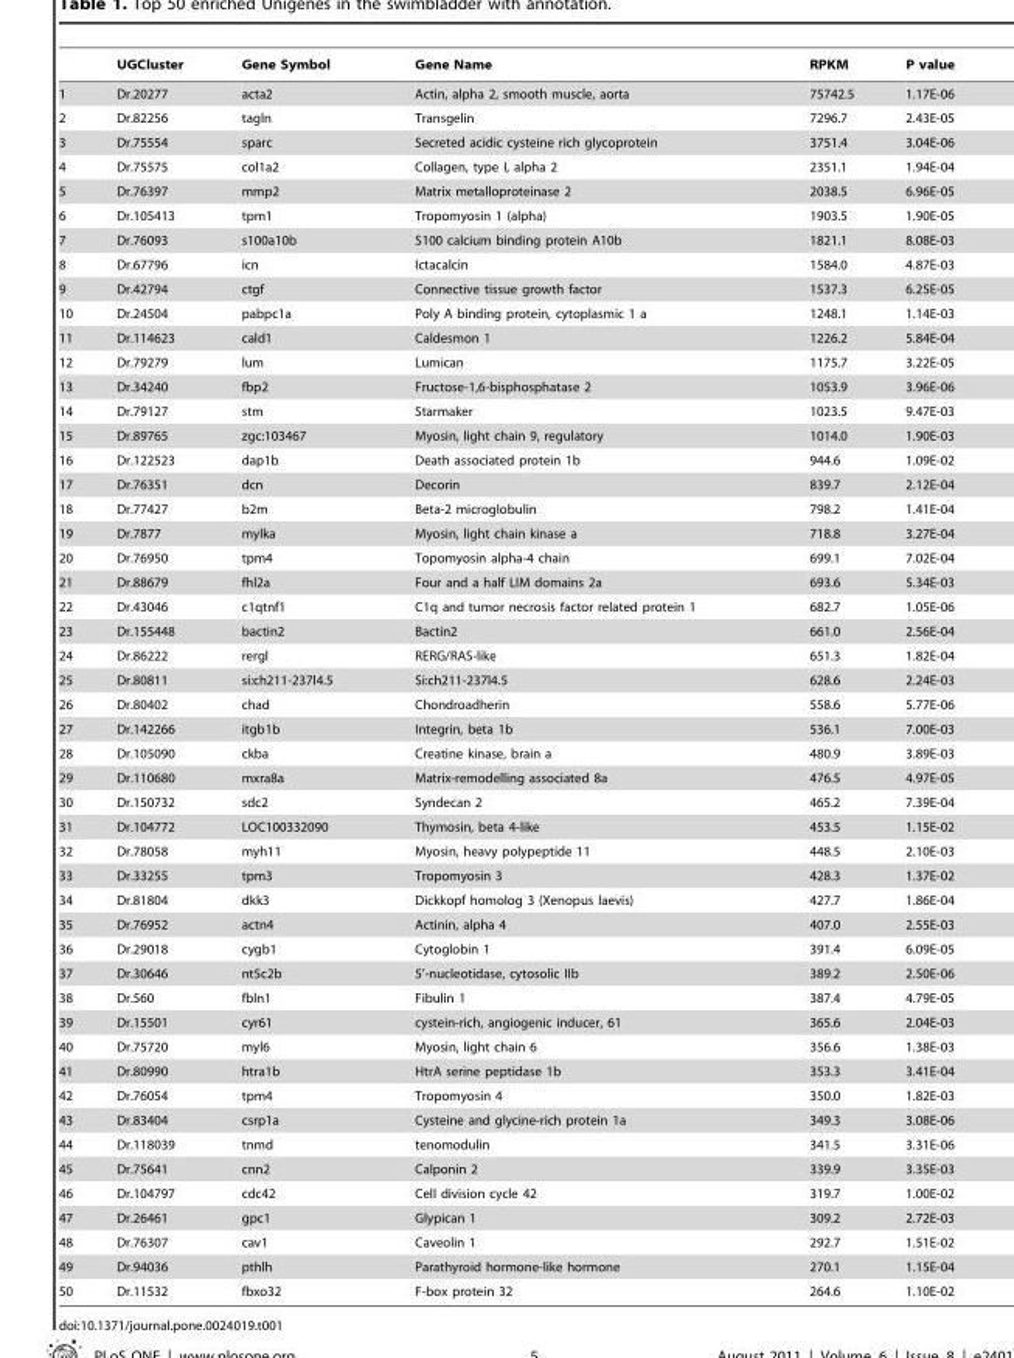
<table><thead><tr><td></td><td>UGCluster</td><td>Gene Symbol</td><td>Gene Name</td><td>RPKM</td><td>P value</td></tr></thead><tbody><tr><td>1</td><td>Dr.20277</td><td>acta2</td><td>Actin, alpha 2, smooth muscle, aorta</td><td>75742.5</td><td>1.17E-06</td></tr><tr><td>2</td><td>Dr.82256</td><td>tagln</td><td>Transgelin</td><td>7296.7</td><td>2.43E-05</td></tr><tr><td>3</td><td>Dr.75554</td><td>sparc</td><td>Secreted acidic cysteine rich glycoprotein</td><td>3751.4</td><td>3.04E-06</td></tr><tr><td>4</td><td>Dr.75575</td><td>col1a2</td><td>Collagen, type I, alpha 2</td><td>2351.1</td><td>1.94E-04</td></tr><tr><td>5</td><td>Dr.76397</td><td>mmp2</td><td>Matrix metalloproteinase 2</td><td>2038.5</td><td>6.96E-05</td></tr><tr><td>6</td><td>Dr.105413</td><td>tpm1</td><td>Tropomyosin 1 (alpha)</td><td>1903.5</td><td>1.90E-05</td></tr><tr><td>7</td><td>Dr.76093</td><td>s100a10b</td><td>S100 calcium binding protein A10b</td><td>1821.1</td><td>8.08E-03</td></tr><tr><td>8</td><td>Dr.67796</td><td>icn</td><td>Ictacalcin</td><td>1584.0</td><td>4.87E-03</td></tr><tr><td>9</td><td>Dr.42794</td><td>ctgf</td><td>Connective tissue growth factor</td><td>1537.3</td><td>6.25E-05</td></tr><tr><td>10</td><td>Dr.24504</td><td>pabpc1a</td><td>Poly A binding protein, cytoplasmic 1 a</td><td>1248.1</td><td>1.14E-03</td></tr><tr><td>11</td><td>Dr.114623</td><td>cald1</td><td>Caldesmon 1</td><td>1226.2</td><td>5.84E-04</td></tr><tr><td>12</td><td>Dr.79279</td><td>lum</td><td>Lumican</td><td>1175.7</td><td>3.22E-05</td></tr><tr><td>13</td><td>Dr.34240</td><td>fbp2</td><td>Fructose-1,6-bisphosphatase 2</td><td>1053.9</td><td>3.96E-06</td></tr><tr><td>14</td><td>Dr.79127</td><td>stm</td><td>Starmaker</td><td>1023.5</td><td>9.47E-03</td></tr><tr><td>15</td><td>Dr.89765</td><td>zgc:103467</td><td>Myosin, light chain 9, regulatory</td><td>1014.0</td><td>1.90E-03</td></tr><tr><td>16</td><td>Dr.122523</td><td>dap1b</td><td>Death associated protein 1b</td><td>944.6</td><td>1.09E-02</td></tr><tr><td>17</td><td>Dr.76351</td><td>dcn</td><td>Decorin</td><td>839.7</td><td>2.12E-04</td></tr><tr><td>18</td><td>Dr.77427</td><td>b2m</td><td>Beta-2 microglobulin</td><td>798.2</td><td>1.41E-04</td></tr><tr><td>19</td><td>Dr.7877</td><td>mylka</td><td>Myosin, light chain kinase a</td><td>718.8</td><td>3.27E-04</td></tr><tr><td>20</td><td>Dr.76950</td><td>tpm4</td><td>Topomyosin alpha-4 chain</td><td>699.1</td><td>7.02E-04</td></tr><tr><td>21</td><td>Dr.88679</td><td>fhl2a</td><td>Four and a half LIM domains 2a</td><td>693.6</td><td>5.34E-03</td></tr><tr><td>22</td><td>Dr.43046</td><td>c1qtnf1</td><td>C1q and tumor necrosis factor related protein 1</td><td>682.7</td><td>1.05E-06</td></tr><tr><td>23</td><td>Dr.155448</td><td>bactin2</td><td>Bactin2</td><td>661.0</td><td>2.56E-04</td></tr><tr><td>24</td><td>Dr.86222</td><td>rergl</td><td>RERG/RAS-like</td><td>651.3</td><td>1.82E-04</td></tr><tr><td>25</td><td>Dr.80811</td><td>si:ch211-237l4.5</td><td>Si:ch211-237l4.5</td><td>628.6</td><td>2.24E-03</td></tr><tr><td>26</td><td>Dr.80402</td><td>chad</td><td>Chondroadherin</td><td>558.6</td><td>5.77E-06</td></tr><tr><td>27</td><td>Dr.142266</td><td>itgb1b</td><td>Integrin, beta 1b</td><td>536.1</td><td>7.00E-03</td></tr><tr><td>28</td><td>Dr.105090</td><td>ckba</td><td>Creatine kinase, brain a</td><td>480.9</td><td>3.89E-03</td></tr><tr><td>29</td><td>Dr.110680</td><td>mxra8a</td><td>Matrix-remodelling associated 8a</td><td>476.5</td><td>4.97E-05</td></tr><tr><td>30</td><td>Dr.150732</td><td>sdc2</td><td>Syndecan 2</td><td>465.2</td><td>7.39E-04</td></tr><tr><td>31</td><td>Dr.104772</td><td>LOC100332090</td><td>Thymosin, beta 4-like</td><td>453.5</td><td>1.15E-02</td></tr><tr><td>32</td><td>Dr.78058</td><td>myh11</td><td>Myosin, heavy polypeptide 11</td><td>448.5</td><td>2.10E-03</td></tr><tr><td>33</td><td>Dr.33255</td><td>tpm3</td><td>Tropomyosin 3</td><td>428.3</td><td>1.37E-02</td></tr><tr><td>34</td><td>Dr.81804</td><td>dkk3</td><td>Dickkopf homolog 3 (Xenopus laevis)</td><td>427.7</td><td>1.86E-04</td></tr><tr><td>35</td><td>Dr.76952</td><td>actn4</td><td>Actinin, alpha 4</td><td>407.0</td><td>2.55E-03</td></tr><tr><td>36</td><td>Dr.29018</td><td>cygb1</td><td>Cytoglobin 1</td><td>391.4</td><td>6.09E-05</td></tr><tr><td>37</td><td>Dr.30646</td><td>nt5c2b</td><td>5’-nucleotidase, cytosolic IIb</td><td>389.2</td><td>2.50E-06</td></tr><tr><td>38</td><td>Dr.560</td><td>fbln1</td><td>Fibulin 1</td><td>387.4</td><td>4.79E-05</td></tr><tr><td>39</td><td>Dr.15501</td><td>cyr61</td><td>cystein-rich, angiogenic inducer, 61</td><td>365.6</td><td>2.04E-03</td></tr><tr><td>40</td><td>Dr.75720</td><td>myl6</td><td>Myosin, light chain 6</td><td>356.6</td><td>1.38E-03</td></tr><tr><td>41</td><td>Dr.80990</td><td>htra1b</td><td>HtrA serine peptidase 1b</td><td>353.3</td><td>3.41E-04</td></tr><tr><td>42</td><td>Dr.76054</td><td>tpm4</td><td>Tropomyosin 4</td><td>350.0</td><td>1.82E-03</td></tr><tr><td>43</td><td>Dr.83404</td><td>csrp1a</td><td>Cysteine and glycine-rich protein 1a</td><td>349.3</td><td>3.08E-06</td></tr><tr><td>44</td><td>Dr.118039</td><td>tnmd</td><td>tenomodulin</td><td>341.5</td><td>3.31E-06</td></tr><tr><td>45</td><td>Dr.75641</td><td>cnn2</td><td>Calponin 2</td><td>339.9</td><td>3.35E-03</td></tr><tr><td>46</td><td>Dr.104797</td><td>cdc42</td><td>Cell division cycle 42</td><td>319.7</td><td>1.00E-02</td></tr><tr><td>47</td><td>Dr.26461</td><td>gpc1</td><td>Glypican 1</td><td>309.2</td><td>2.72E-03</td></tr><tr><td>48</td><td>Dr.76307</td><td>cav1</td><td>Caveolin 1</td><td>292.7</td><td>1.51E-02</td></tr><tr><td>49</td><td>Dr.94036</td><td>pthlh</td><td>Parathyroid hormone-like hormone</td><td>270.1</td><td>1.15E-04</td></tr><tr><td>50</td><td>Dr.11532</td><td>fbxo32</td><td>F-box protein 32</td><td>264.6</td><td>1.10E-02</td></tr></tbody></table>